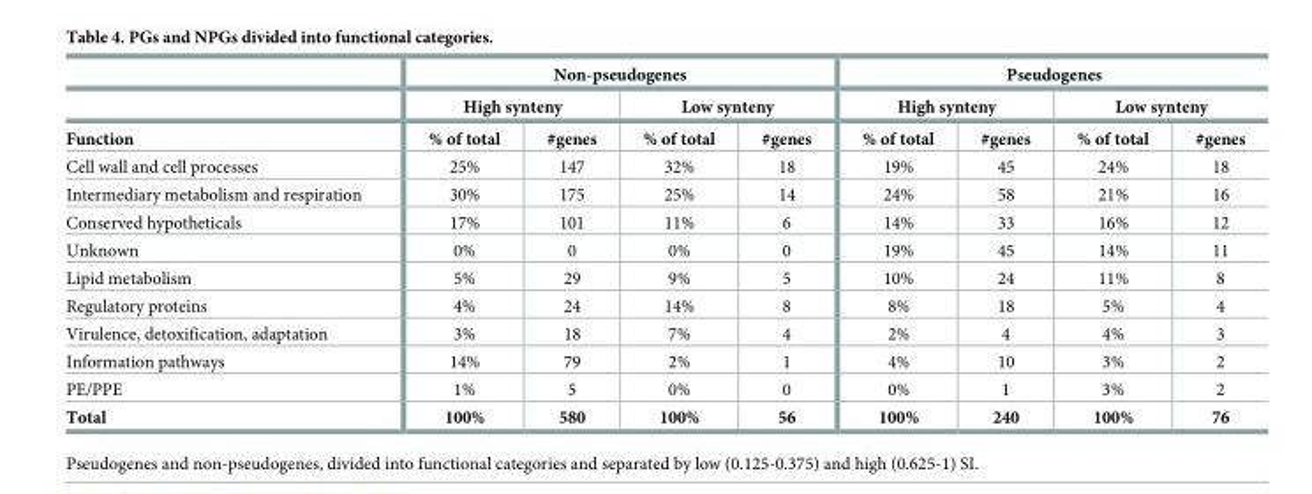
<table><thead><tr><td rowspan="3">Function</td><td colspan="4">Non-pseudogenes</td><td colspan="4">Pseudogenes</td></tr><tr><td colspan="2">High synteny</td><td colspan="2">Low synteny</td><td colspan="2">High synteny</td><td colspan="2">Low synteny</td></tr><tr><td>% of total</td><td>#genes</td><td>% of total</td><td>#genes</td><td>% of total</td><td>#genes</td><td>% of total</td><td>#genes</td></tr></thead><tbody><tr><td>Cell wall and cell processes</td><td>25%</td><td>147</td><td>32%</td><td>18</td><td>19%</td><td>45</td><td>24%</td><td>18</td></tr><tr><td>Intermediary metabolism and respiration</td><td>30%</td><td>175</td><td>25%</td><td>14</td><td>24%</td><td>58</td><td>21%</td><td>16</td></tr><tr><td>Conserved hypotheticals</td><td>17%</td><td>101</td><td>11%</td><td>6</td><td>14%</td><td>33</td><td>16%</td><td>12</td></tr><tr><td>Unknown</td><td>0%</td><td>0</td><td>0%</td><td>0</td><td>19%</td><td>45</td><td>14%</td><td>11</td></tr><tr><td>Lipid metabolism</td><td>5%</td><td>29</td><td>9%</td><td>5</td><td>10%</td><td>24</td><td>11%</td><td>8</td></tr><tr><td>Regulatory proteins</td><td>4%</td><td>24</td><td>14%</td><td>8</td><td>8%</td><td>18</td><td>5%</td><td>4</td></tr><tr><td>Virulence, detoxification, adaptation</td><td>3%</td><td>18</td><td>7%</td><td>4</td><td>2%</td><td>4</td><td>4%</td><td>3</td></tr><tr><td>Information pathways</td><td>14%</td><td>79</td><td>2%</td><td>1</td><td>4%</td><td>10</td><td>3%</td><td>2</td></tr><tr><td>PE/PPE</td><td>1%</td><td>5</td><td>0%</td><td>0</td><td>0%</td><td>1</td><td>3%</td><td>2</td></tr><tr><td>Total</td><td>100%</td><td>580</td><td>100%</td><td>56</td><td>100%</td><td>240</td><td>100%</td><td>76</td></tr></tbody></table>